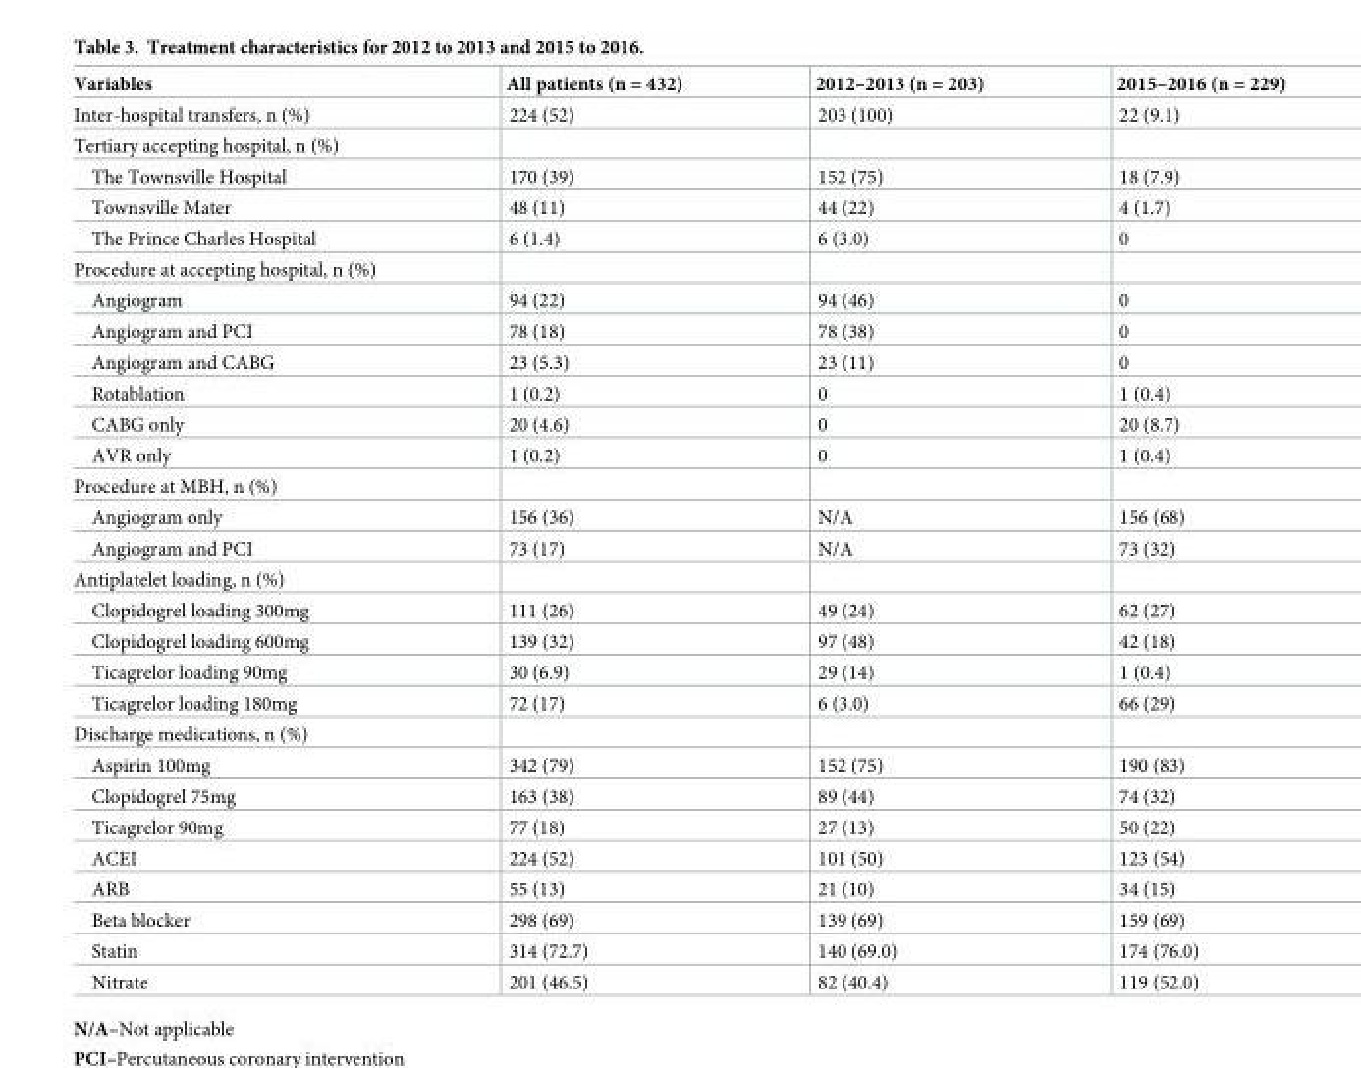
<table><thead><tr><td>Variables</td><td>All patients (n = 432)</td><td>2012–2013 (n = 203)</td><td>2015–2016 (n = 229)</td></tr></thead><tbody><tr><td>Inter-hospital transfers, n (%)</td><td>224 (52)</td><td>203 (100)</td><td>22 (9.1)</td></tr><tr><td colspan="4">Tertiary accepting hospital, n (%)</td></tr><tr><td>The Townsville Hospital</td><td>170 (39)</td><td>152 (75)</td><td>18 (7.9)</td></tr><tr><td>Townsville Mater</td><td>48 (11)</td><td>44 (22)</td><td>4 (1.7)</td></tr><tr><td>The Prince Charles Hospital</td><td>6 (1.4)</td><td>6 (3.0)</td><td>0</td></tr><tr><td colspan="4">Procedure at accepting hospital, n (%)</td></tr><tr><td>Angiogram</td><td>94 (22)</td><td>94 (46)</td><td>0</td></tr><tr><td>Angiogram and PCI</td><td>78 (18)</td><td>78 (38)</td><td>0</td></tr><tr><td>Angiogram and CABG</td><td>23 (5.3)</td><td>23 (11)</td><td>0</td></tr><tr><td>Rotablation</td><td>1 (0.2)</td><td>0</td><td>1 (0.4)</td></tr><tr><td>CABG only</td><td>20 (4.6)</td><td>0</td><td>20 (8.7)</td></tr><tr><td>AVR only</td><td>1 (0.2)</td><td>0</td><td>1 (0.4)</td></tr><tr><td colspan="4">Procedure at MBH, n (%)</td></tr><tr><td>Angiogram only</td><td>156 (36)</td><td>N/A</td><td>156 (68)</td></tr><tr><td>Angiogram and PCI</td><td>73 (17)</td><td>N/A</td><td>73 (32)</td></tr><tr><td colspan="4">Antiplatelet loading, n (%)</td></tr><tr><td>Clopidogrel loading 300mg</td><td>111 (26)</td><td>49 (24)</td><td>62 (27)</td></tr><tr><td>Clopidogrel loading 600mg</td><td>139 (32)</td><td>97 (48)</td><td>42 (18)</td></tr><tr><td>Ticagrelor loading 90mg</td><td>30 (6.9)</td><td>29 (14)</td><td>1 (0.4)</td></tr><tr><td>Ticagrelor loading 180mg</td><td>72 (17)</td><td>6 (3.0)</td><td>66 (29)</td></tr><tr><td colspan="4">Discharge medications, n (%)</td></tr><tr><td>Aspirin 100mg</td><td>342 (79)</td><td>152 (75)</td><td>190 (83)</td></tr><tr><td>Clopidogrel 75mg</td><td>163 (38)</td><td>89 (44)</td><td>74 (32)</td></tr><tr><td>Ticagrelor 90mg</td><td>77 (18)</td><td>27 (13)</td><td>50 (22)</td></tr><tr><td>ACEI</td><td>224 (52)</td><td>101 (50)</td><td>123 (54)</td></tr><tr><td>ARB</td><td>55 (13)</td><td>21 (10)</td><td>34 (15)</td></tr><tr><td>Beta blocker</td><td>298 (69)</td><td>139 (69)</td><td>159 (69)</td></tr><tr><td>Statin</td><td>314 (72.7)</td><td>140 (69.0)</td><td>174 (76.0)</td></tr><tr><td>Nitrate</td><td>201 (46.5)</td><td>82 (40.4)</td><td>119 (52.0)</td></tr></tbody></table>